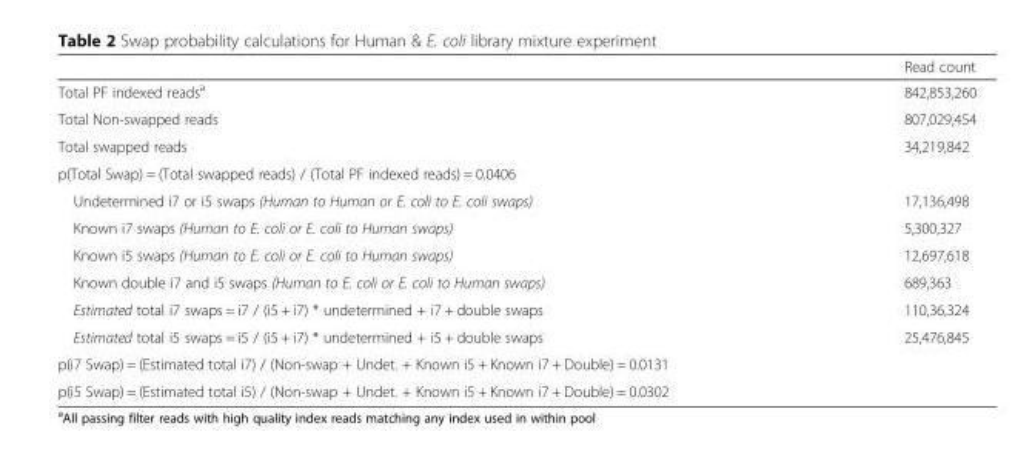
<table><thead><tr><td></td><td>Read count</td></tr></thead><tbody><tr><td>Total PF indexed reads<sup>a</sup></td><td>842,853,260</td></tr><tr><td>Total Non-swapped reads</td><td>807,029,454</td></tr><tr><td>Total swapped reads</td><td>34,219,842</td></tr><tr><td colspan="2">p(Total Swap) = (Total swapped reads) / (Total PF indexed reads) = 0.0406</td></tr><tr><td>Undetermined i7 or i5 swaps (Human to Human or E. coli to E. coli swaps)</td><td>17,136,498</td></tr><tr><td>Known i7 swaps (Human to E. coli or E. coli to Human swaps)</td><td>5,300,327</td></tr><tr><td>Known i5 swaps (Human to E. coli or E. coli to Human swaps)</td><td>12,697,618</td></tr><tr><td>Known double i7 and i5 swaps (Human to E. coli or E. coli to Human swaps)</td><td>689,363</td></tr><tr><td>Estimated total i7 swaps = i7 / (i5 + i7) * undetermined + i7 + double swaps</td><td>110,36,324</td></tr><tr><td>Estimated total i5 swaps = i5 / (i5 + i7) * undetermined + i5 + double swaps</td><td>25,476,845</td></tr><tr><td colspan="2">p(i7 Swap) = (Estimated total i7) / (Non-swap + Undet. + Known i5 + Known i7 + Double) = 0.0131</td></tr><tr><td colspan="2">p(i5 Swap) = (Estimated total i5) / (Non-swap + Undet. + Known i5 + Known i7 + Double) = 0.0302</td></tr></tbody></table>